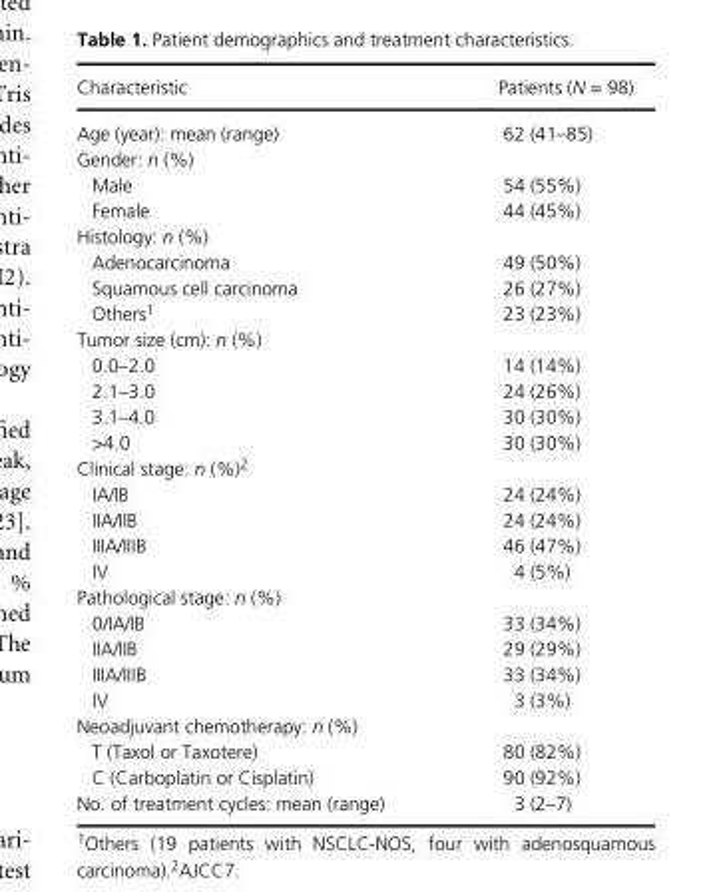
<table><thead><tr><td>Characteristic</td><td>Patients (N = 98)</td></tr></thead><tbody><tr><td>Age (year): mean (range)</td><td>62 (41–85)</td></tr><tr><td colspan="2">Gender: n (%)</td></tr><tr><td>Male</td><td>54 (55%)</td></tr><tr><td>Female</td><td>44 (45%)</td></tr><tr><td colspan="2">Histology: n (%)</td></tr><tr><td>Adenocarcinoma</td><td>49 (50%)</td></tr><tr><td>Squamous cell carcinoma</td><td>26 (27%)</td></tr><tr><td>Others1</td><td>23 (23%)</td></tr><tr><td colspan="2">Tumor size (cm): n (%)</td></tr><tr><td>0.0–2.0</td><td>14 (14%)</td></tr><tr><td>2.1–3.0</td><td>24 (26%)</td></tr><tr><td>3.1–4.0</td><td>30 (30%)</td></tr><tr><td>&gt;4.0</td><td>30 (30%)</td></tr><tr><td colspan="2">Clinical stage: n (%)2</td></tr><tr><td>IA/IB</td><td>24 (24%)</td></tr><tr><td>IIA/IIB</td><td>24 (24%)</td></tr><tr><td>IIIA/IIIB</td><td>46 (47%)</td></tr><tr><td>IV</td><td>4 (5%)</td></tr><tr><td colspan="2">Pathological stage: n (%)</td></tr><tr><td>0/IA/IB</td><td>33 (34%)</td></tr><tr><td>IIA/IIB</td><td>29 (29%)</td></tr><tr><td>IIIA/IIIB</td><td>33 (34%)</td></tr><tr><td>IV</td><td>3 (3%)</td></tr><tr><td colspan="2">Neoadjuvant chemotherapy: n (%)</td></tr><tr><td>T (Taxol or Taxotere)</td><td>80 (82%)</td></tr><tr><td>C (Carboplatin or Cisplatin)</td><td>90 (92%)</td></tr><tr><td>No. of treatment cycles: mean (range)</td><td>3 (2–7)</td></tr></tbody></table>